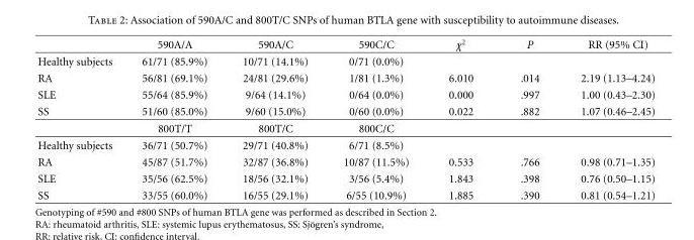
<table><thead><tr><td></td><td>590A/A</td><td>590A/C</td><td>590C/C</td><td>χ<sup>2</sup></td><td>P</td><td>RR (95% CI)</td></tr></thead><tbody><tr><td>Healthy subjects</td><td>61/71 (85.9%)</td><td>10/71 (14.1%)</td><td>0/71 (0.0%)</td><td></td><td></td><td></td></tr><tr><td>RA</td><td>56/81 (69.1%)</td><td>24/81 (29.6%)</td><td>1/81 (1.3%)</td><td>6.010</td><td>.014</td><td>2.19 (1.13–4.24)</td></tr><tr><td>SLE</td><td>55/64 (85.9%)</td><td>9/64 (14.1%)</td><td>0/64 (0.0%)</td><td>0.000</td><td>.997</td><td>1.00 (0.43–2.30)</td></tr><tr><td rowspan="2">SS</td><td>51/60 (85.0%)</td><td>9/60 (15.0%)</td><td>0/60 (0.0%)</td><td>0.022</td><td>.882</td><td>1.07 (0.46–2.45)</td></tr><tr><td>800T/T</td><td>800T/C</td><td>800C/C</td><td></td><td></td><td></td></tr><tr><td>Healthy subjects</td><td>36/71 (50.7%)</td><td>29/71 (40.8%)</td><td>6/71 (8.5%)</td><td></td><td></td><td></td></tr><tr><td>RA</td><td>45/87 (51.7%)</td><td>32/87 (36.8%)</td><td>10/87 (11.5%)</td><td>0.533</td><td>.766</td><td>0.98 (0.71–1.35)</td></tr><tr><td>SLE</td><td>35/56 (62.5%)</td><td>18/56 (32.1%)</td><td>3/56 (5.4%)</td><td>1.843</td><td>.398</td><td>0.76 (0.50–1.15)</td></tr><tr><td>SS</td><td>33/55 (60.0%)</td><td>16/55 (29.1%)</td><td>6/55 (10.9%)</td><td>1.885</td><td>.390</td><td>0.81 (0.54–1.21)</td></tr></tbody></table>